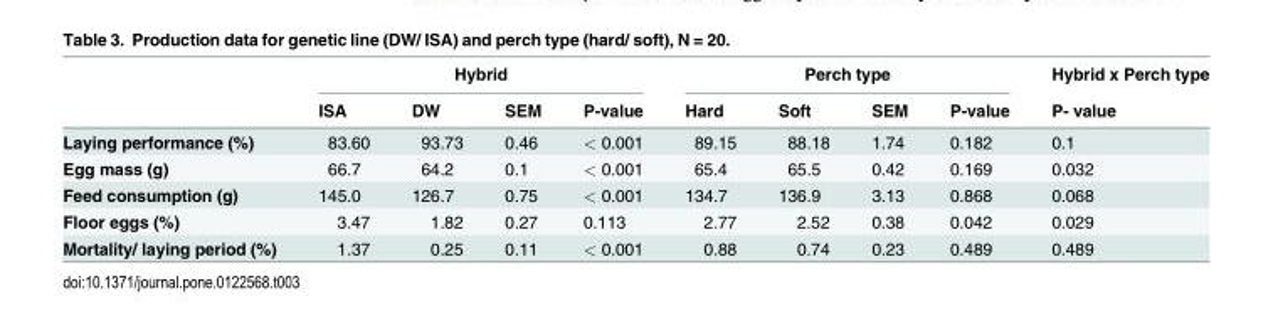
<table><thead><tr><td rowspan="2"></td><td colspan="4">Hybrid</td><td colspan="4">Perch type</td><td rowspan="2">Hybrid x Perch type P- value</td></tr><tr><td>ISA</td><td>DW</td><td>SEM</td><td>P-value</td><td>Hard</td><td>Soft</td><td>SEM</td><td>P-value</td></tr></thead><tbody><tr><td>Laying performance (%)</td><td>83.60</td><td>93.73</td><td>0.46</td><td>&lt; 0.001</td><td>89.15</td><td>88.18</td><td>1.74</td><td>0.182</td><td>0.1</td></tr><tr><td>Egg mass (g)</td><td>66.7</td><td>64.2</td><td>0.1</td><td>&lt; 0.001</td><td>65.4</td><td>65.5</td><td>0.42</td><td>0.169</td><td>0.032</td></tr><tr><td>Feed consumption (g)</td><td>145.0</td><td>126.7</td><td>0.75</td><td>&lt; 0.001</td><td>134.7</td><td>136.9</td><td>3.13</td><td>0.868</td><td>0.068</td></tr><tr><td>Floor eggs (%)</td><td>3.47</td><td>1.82</td><td>0.27</td><td>0.113</td><td>2.77</td><td>2.52</td><td>0.38</td><td>0.042</td><td>0.029</td></tr><tr><td>Mortality/ laying period (%)</td><td>1.37</td><td>0.25</td><td>0.11</td><td>&lt; 0.001</td><td>0.88</td><td>0.74</td><td>0.23</td><td>0.489</td><td>0.489</td></tr></tbody></table>